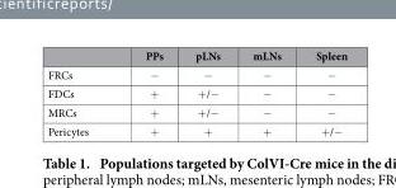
<table><thead><tr><td></td><td>PPs</td><td>pLNs</td><td>mLNs</td><td>Spleen</td></tr></thead><tbody><tr><td>FRCs</td><td>−</td><td>−</td><td>−</td><td>−</td></tr><tr><td>FDCs</td><td>+</td><td>+ /−</td><td>−</td><td>−</td></tr><tr><td>MRCs</td><td>+</td><td>+ /−</td><td>−</td><td>−</td></tr><tr><td>Pericytes</td><td>+</td><td>+</td><td>+</td><td>+ /−</td></tr></tbody></table>